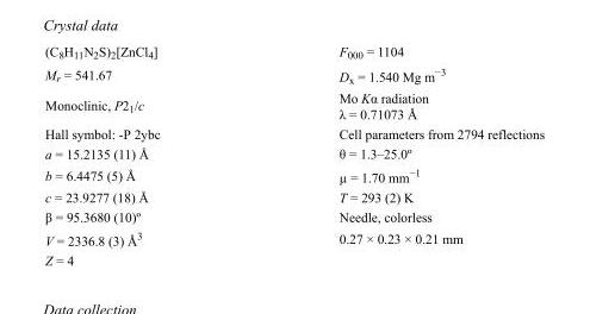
<table><tbody><tr><td>(C<sub>8</sub>H<sub>11</sub>N<sub>2</sub>S)<sub>2</sub>[ZnCl<sub>4</sub>]</td><td>F<sub>000</sub> = 1104</td></tr><tr><td>M<sub>r</sub> = 541.67</td><td>D<sub>x</sub> = 1.540 Mg m<sup>−3</sup></td></tr><tr><td>Monoclinic, P2<sub>1</sub>/c</td><td>Mo Kα radiation λ = 0.71073 Å</td></tr><tr><td>Hall symbol: -P 2ybc</td><td>Cell parameters from 2794 reflections</td></tr><tr><td>a = 15.2135 (11) Å</td><td>θ = 1.3–25.0º</td></tr><tr><td>b = 6.4475 (5) Å</td><td>µ = 1.70 mm<sup>−1</sup></td></tr><tr><td>c = 23.9277 (18) Å</td><td>T = 293 (2) K</td></tr><tr><td>β = 95.3680 (10)º</td><td>Needle, colorless</td></tr><tr><td>V = 2336.8 (3) Å<sup>3</sup></td><td>0.27 × 0.23 × 0.21 mm</td></tr><tr><td>Z = 4</td><td></td></tr></tbody></table>